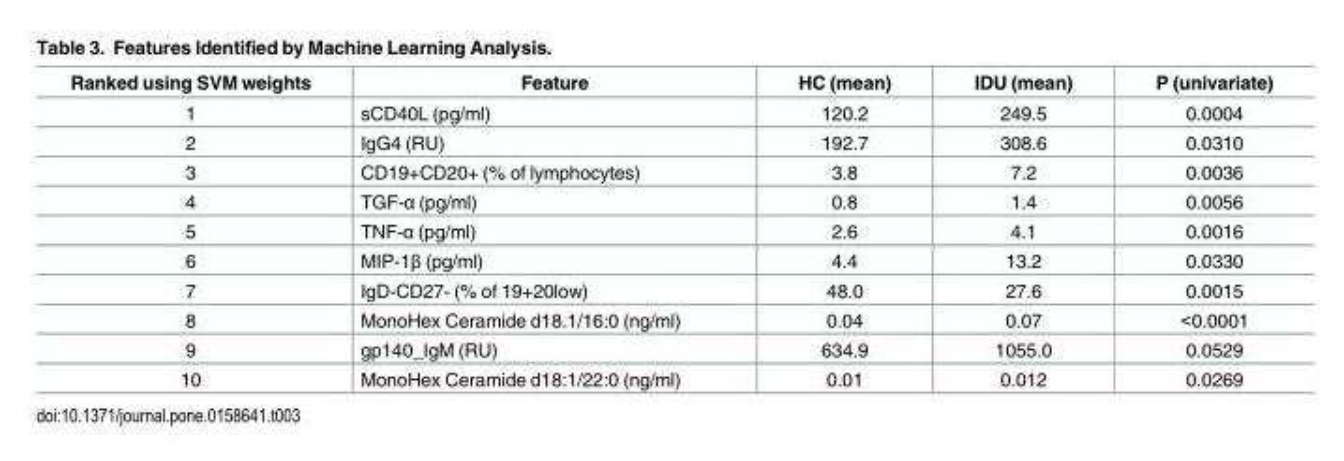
<table><thead><tr><td>Ranked using SVM weights</td><td>Feature</td><td>HC (mean)</td><td>IDU (mean)</td><td>P (univariate)</td></tr></thead><tbody><tr><td>1</td><td>sCD40L (pg/ml)</td><td>120.2</td><td>249.5</td><td>0.0004</td></tr><tr><td>2</td><td>IgG4 (RU)</td><td>192.7</td><td>308.6</td><td>0.0310</td></tr><tr><td>3</td><td>CD19+CD20+ (% of lymphocytes)</td><td>3.8</td><td>7.2</td><td>0.0036</td></tr><tr><td>4</td><td>TGF-α (pg/ml)</td><td>0.8</td><td>1.4</td><td>0.0056</td></tr><tr><td>5</td><td>TNF-α (pg/ml)</td><td>2.6</td><td>4.1</td><td>0.0016</td></tr><tr><td>6</td><td>MIP-1β (pg/ml)</td><td>4.4</td><td>13.2</td><td>0.0330</td></tr><tr><td>7</td><td>IgD-CD27- (% of 19+20low)</td><td>48.0</td><td>27.6</td><td>0.0015</td></tr><tr><td>8</td><td>MonoHex Ceramide d18.1/16:0 (ng/ml)</td><td>0.04</td><td>0.07</td><td>&lt;0.0001</td></tr><tr><td>9</td><td>gp140_IgM (RU)</td><td>634.9</td><td>1055.0</td><td>0.0529</td></tr><tr><td>10</td><td>MonoHex Ceramide d18:1/22:0 (ng/ml)</td><td>0.01</td><td>0.012</td><td>0.0269</td></tr></tbody></table>